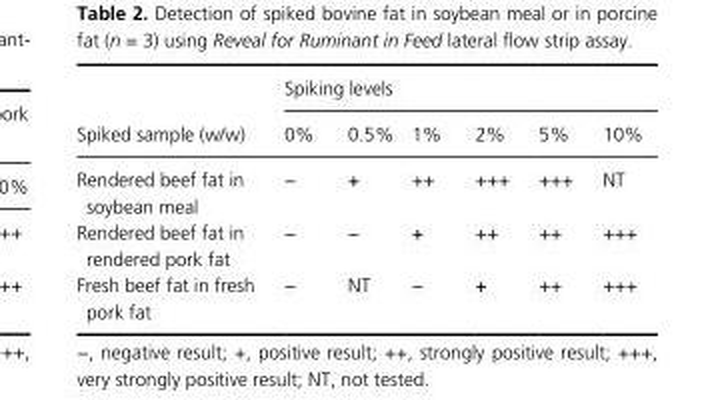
<table><thead><tr><td rowspan="2">Spiked sample (w/w)</td><td colspan="6">Spiking levels</td></tr><tr><td>0%</td><td>0.5%</td><td>1%</td><td>2%</td><td>5%</td><td>10%</td></tr></thead><tbody><tr><td>Rendered beef fat in soybean meal</td><td>−</td><td>+</td><td>++</td><td>+++</td><td>+++</td><td>NT</td></tr><tr><td>Rendered beef fat in rendered pork fat</td><td>−</td><td>−</td><td>+</td><td>++</td><td>++</td><td>+++</td></tr><tr><td>Fresh beef fat in fresh pork fat</td><td>−</td><td>NT</td><td>−</td><td>+</td><td>++</td><td>+++</td></tr></tbody></table>